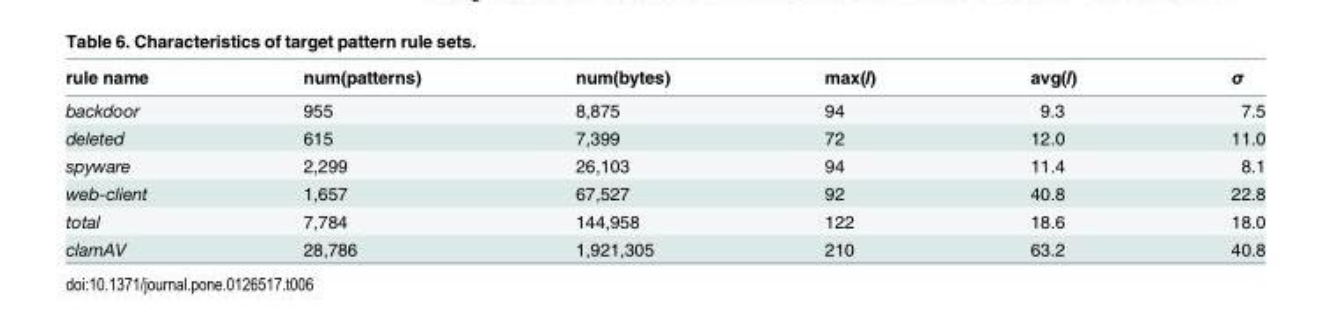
<table><thead><tr><td>rule name</td><td>num(patterns)</td><td>num(bytes)</td><td>max(l)</td><td>avg(l)</td><td>σ</td></tr></thead><tbody><tr><td>backdoor</td><td>955</td><td>8,875</td><td>94</td><td>9.3</td><td>7.5</td></tr><tr><td>deleted</td><td>615</td><td>7,399</td><td>72</td><td>12.0</td><td>11.0</td></tr><tr><td>spyware</td><td>2,299</td><td>26,103</td><td>94</td><td>11.4</td><td>8.1</td></tr><tr><td>web-client</td><td>1,657</td><td>67,527</td><td>92</td><td>40.8</td><td>22.8</td></tr><tr><td>total</td><td>7,784</td><td>144,958</td><td>122</td><td>18.6</td><td>18.0</td></tr><tr><td>clamAV</td><td>28,786</td><td>1,921,305</td><td>210</td><td>63.2</td><td>40.8</td></tr></tbody></table>